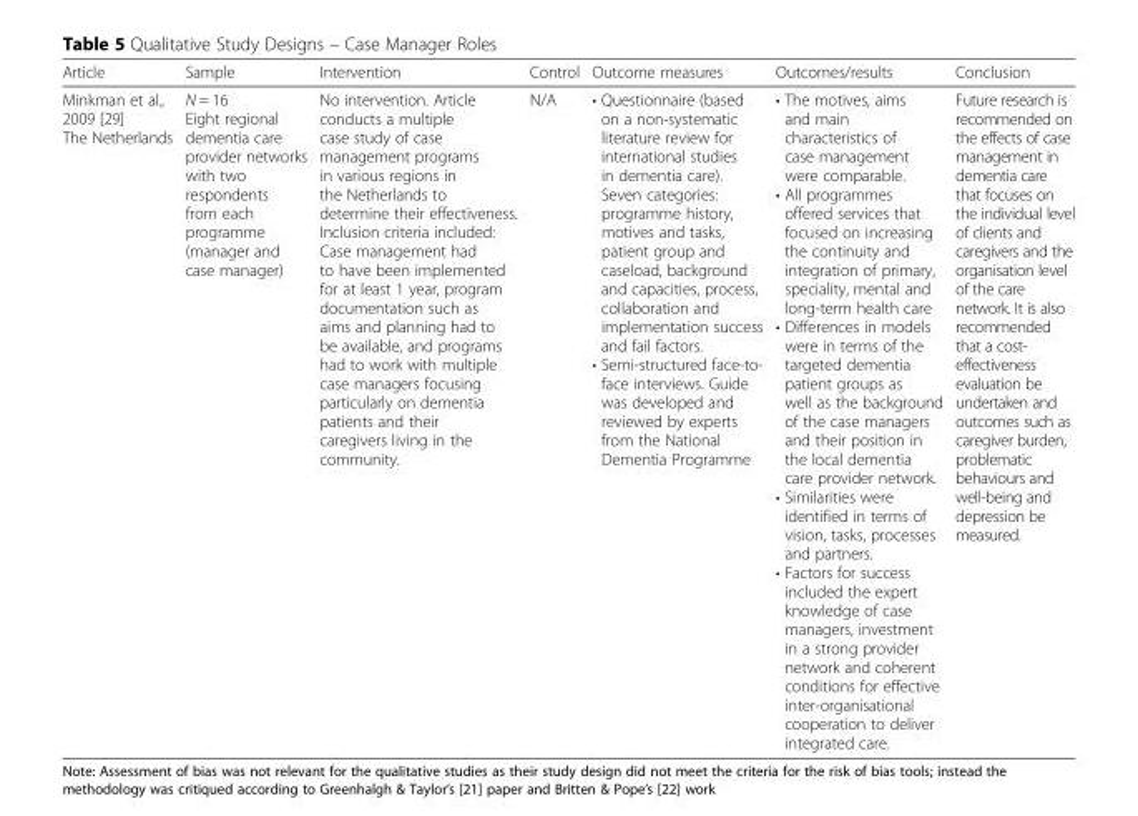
<table><thead><tr><td>Article</td><td>Sample</td><td>Intervention</td><td>Control</td><td>Outcome measures</td><td>Outcomes/results</td><td>Conclusion</td></tr></thead><tbody><tr><td>Minkman et al., 2009 [29] The Netherlands</td><td>N = 16 Eight regional dementia care provider networks with two respondents from each programme (manager and case manager)</td><td>No intervention. Article conducts a multiple case study of case management programs in various regions in the Netherlands to determine their effectiveness. Inclusion criteria included: Case management had to have been implemented for at least 1 year, program documentation such as aims and planning had to be available, and programs had to work with multiple case managers focusing particularly on dementia patients and their caregivers living in the community.</td><td>N/A</td><td>• Questionnaire (based on a non-systematic literature review for international studies in dementia care). Seven categories: programme history, motives and tasks, patient group and caseload, background and capacities, process, collaboration and implementation success and fail factors. • Semi-structured face-to- face interviews. Guide was developed and reviewed by experts from the National Dementia Programme</td><td>• The motives, aims and main characteristics of case management were comparable. • All programmes offered services that focused on increasing the continuity and integration of primary, speciality, mental and long-term health care • Differences in models were in terms of the targeted dementia patient groups as well as the background of the case managers and their position in the local dementia care provider network. • Similarities were identified in terms of vision, tasks, processes and partners. • Factors for success included the expert knowledge of case managers, investment in a strong provider network and coherent conditions for effective inter-organisational cooperation to deliver integrated care.</td><td>Future research is recommended on the effects of case management in dementia care that focuses on the individual level of clients and caregivers and the organisation level of the care network. It is also recommended that a cost- effectiveness evaluation be undertaken and outcomes such as caregiver burden, problematic behaviours and well-being and depression be measured.</td></tr></tbody></table>